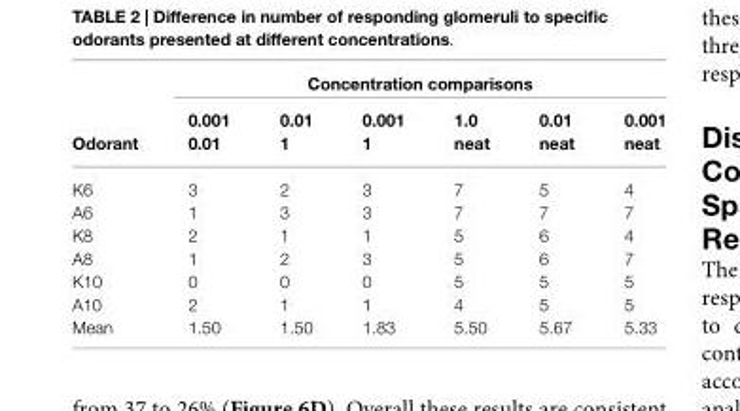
<table><thead><tr><td rowspan="3">Odorant</td><td colspan="6">Concentration comparisons</td></tr><tr><td rowspan="2">0.001 0.01</td><td rowspan="2">0.01 1</td><td rowspan="2">0.001 1</td><td rowspan="2">1.0 neat</td><td rowspan="2">0.01 neat</td><td rowspan="2">0.001 neat</td></tr><tr></tr></thead><tbody><tr><td>K6</td><td>3</td><td>2</td><td>3</td><td>7</td><td>5</td><td>4</td></tr><tr><td>A6</td><td>1</td><td>3</td><td>3</td><td>7</td><td>7</td><td>7</td></tr><tr><td>K8</td><td>2</td><td>1</td><td>1</td><td>5</td><td>6</td><td>4</td></tr><tr><td>A8</td><td>1</td><td>2</td><td>3</td><td>5</td><td>6</td><td>7</td></tr><tr><td>K10</td><td>0</td><td>0</td><td>0</td><td>5</td><td>5</td><td>5</td></tr><tr><td>A10</td><td>2</td><td>1</td><td>1</td><td>4</td><td>5</td><td>5</td></tr><tr><td>Mean</td><td>1.50</td><td>1.50</td><td>1.83</td><td>5.50</td><td>5.67</td><td>5.33</td></tr></tbody></table>